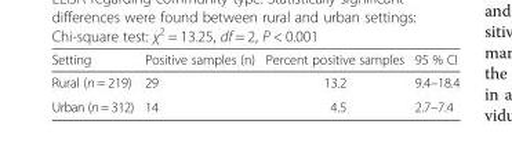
<table><thead><tr><td>Setting</td><td>Positive samples (n)</td><td>Percent positive samples</td><td>95 % CI</td></tr></thead><tbody><tr><td>Rural (n = 219)</td><td>29</td><td>13.2</td><td>9.4–18.4</td></tr><tr><td>Urban (n = 312)</td><td>14</td><td>4.5</td><td>2.7–7.4</td></tr></tbody></table>